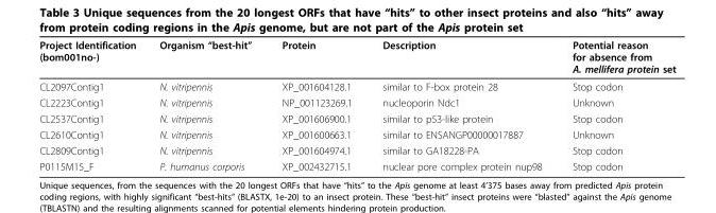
<table><thead><tr><td>Project Identification (bom001no-)</td><td>Organism “best-hit”</td><td>Protein</td><td>Description</td><td>Potential reason for absence from A. mellifera protein set</td></tr></thead><tbody><tr><td>CL2097Contig1</td><td>N. vitripennis</td><td>XP_001604128.1</td><td>similar to F-box protein 28</td><td>Stop codon</td></tr><tr><td>CL2223Contig1</td><td>N. vitripennis</td><td>NP_001123269.1</td><td>nucleoporin Ndc1</td><td>Unknown</td></tr><tr><td>CL2537Contig1</td><td>N. vitripennis</td><td>XP_001606900.1</td><td>similar to p53-like protein</td><td>Stop codon</td></tr><tr><td>CL2610Contig1</td><td>N. vitripennis</td><td>XP_001600663.1</td><td>similar to ENSANGP00000017887</td><td>Unknown</td></tr><tr><td>CL2809Contig1</td><td>N. vitripennis</td><td>XP_001604974.1</td><td>similar to GA18228-PA</td><td>Stop codon</td></tr><tr><td>P0115M15_F</td><td>P. humanus corporis</td><td>XP_002432715.1</td><td>nuclear pore complex protein nup98</td><td>Stop codon</td></tr></tbody></table>